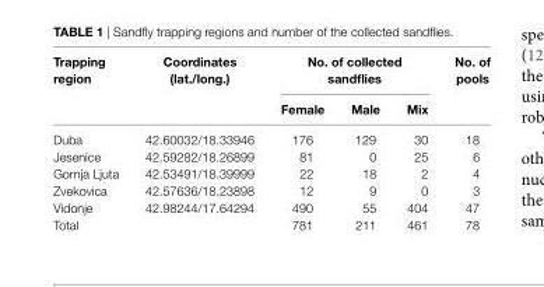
<table><thead><tr><td rowspan="2">trapping region</td><td rowspan="2">Coordinates (lat./long.)</td><td colspan="3">No. of collected sandflies</td><td rowspan="2">No. of pools</td></tr><tr><td>Female</td><td>Male</td><td>Mix</td></tr></thead><tbody><tr><td>Duba</td><td>42.60032/18.33946</td><td>176</td><td>129</td><td>30</td><td>18</td></tr><tr><td>Jesenice</td><td>42.59282/18.26899</td><td>81</td><td>0</td><td>25</td><td>6</td></tr><tr><td>Gornja Ljuta</td><td>42.53491/18.39999</td><td>22</td><td>18</td><td>2</td><td>4</td></tr><tr><td>Zvekovica</td><td>42.57636/18.23898</td><td>12</td><td>9</td><td>0</td><td>3</td></tr><tr><td>Vidonje</td><td>42.98244/17.64294</td><td>490</td><td>55</td><td>404</td><td>47</td></tr><tr><td>Total</td><td></td><td>781</td><td>211</td><td>461</td><td>78</td></tr></tbody></table>